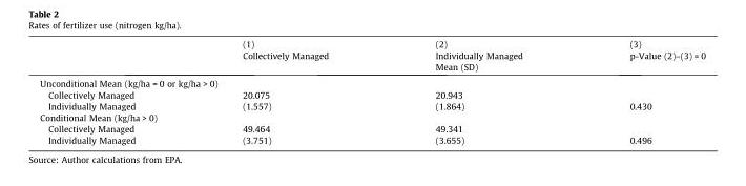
<table><thead><tr><td rowspan="3"></td><td rowspan="3">(1) Collectively Managed</td><td rowspan="3">(2) Individually Managed Mean (SD)</td><td rowspan="3">(3) p-Value (2)–(3) = 0</td></tr><tr></tr><tr></tr></thead><tbody><tr><td colspan="4">Unconditional Mean (kg/ha = 0 or kg/ha &gt; 0)</td></tr><tr><td>Collectively Managed</td><td>20.075</td><td>20.943</td><td></td></tr><tr><td>Individually Managed</td><td>(1.557)</td><td>(1.864)</td><td>0.430</td></tr><tr><td colspan="4">Conditional Mean (kg/ha &gt; 0)</td></tr><tr><td>Collectively Managed</td><td>49.464</td><td>49.341</td><td></td></tr><tr><td>Individually Managed</td><td>(3.751)</td><td>(3.655)</td><td>0.496</td></tr></tbody></table>